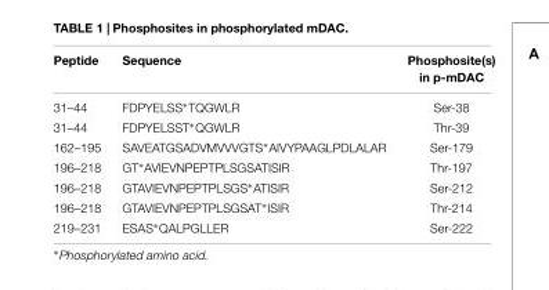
<table><thead><tr><td>Peptide</td><td>Sequence</td><td>Phosphosite(s) in p-mDAC</td></tr></thead><tbody><tr><td>31–44</td><td>FDPYELSS∗TQGWLR</td><td>Ser-38</td></tr><tr><td>31–44</td><td>FDPYELSST∗QGWLR</td><td>Thr-39</td></tr><tr><td>162–195</td><td>SAVEATGSADVMVVVGTS∗AIVYPAAGLPDLALAR</td><td>Ser-179</td></tr><tr><td>196–218</td><td>GT∗AVIEVNPEPTPLSGSATISIR</td><td>Thr-197</td></tr><tr><td>196–218</td><td>GTAVIEVNPEPTPLSGS∗ATISIR</td><td>Ser-212</td></tr><tr><td>196–218</td><td>GTAVIEVNPEPTPLSGSAT∗ISIR</td><td>Thr-214</td></tr><tr><td>219–231</td><td>ESAS∗QALPGLLER</td><td>Ser-222</td></tr></tbody></table>